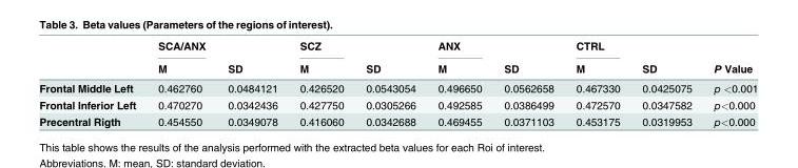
<table><thead><tr><td rowspan="2"></td><td rowspan="2">SCA/ANX M</td><td rowspan="2">SD</td><td rowspan="2">SCZ M</td><td rowspan="2">SD</td><td rowspan="2">ANX M</td><td rowspan="2">SD</td><td rowspan="2">CTRL M</td><td rowspan="2">SD</td><td rowspan="2">P Value</td></tr><tr></tr></thead><tbody><tr><td>Frontal Middle Left</td><td>0.462760</td><td>0.0484121</td><td>0.426520</td><td>0.0543054</td><td>0.496650</td><td>0.0562658</td><td>0.467330</td><td>0.0425075</td><td>p &lt;0.001</td></tr><tr><td>Frontal Inferior Left</td><td>0.470270</td><td>0.0342436</td><td>0.427750</td><td>0.0305266</td><td>0.492585</td><td>0.0386499</td><td>0.472570</td><td>0.0347582</td><td>p&lt;0.000</td></tr><tr><td>Precentral Rigth</td><td>0.454550</td><td>0.0349078</td><td>0.416060</td><td>0.0342688</td><td>0.469455</td><td>0.0371103</td><td>0.453175</td><td>0.0319953</td><td>p&lt;0.000</td></tr></tbody></table>